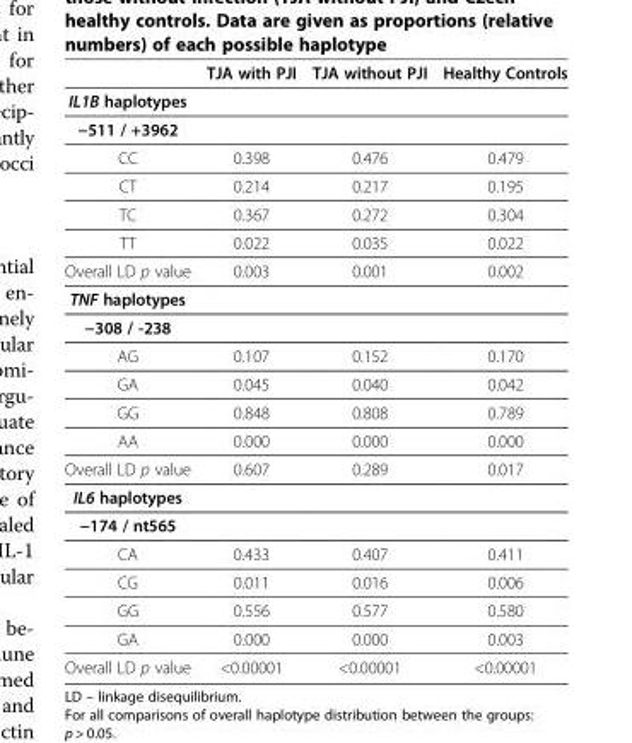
<table><thead><tr><td></td><td>TJA with PJI</td><td>TJA without PJI</td><td>Healthy Controls</td></tr></thead><tbody><tr><td colspan="4">IL1B haplotypes</td></tr><tr><td colspan="4">−511 / +3962</td></tr><tr><td>CC</td><td>0.398</td><td>0.476</td><td>0.479</td></tr><tr><td>CT</td><td>0.214</td><td>0.217</td><td>0.195</td></tr><tr><td>TC</td><td>0.367</td><td>0.272</td><td>0.304</td></tr><tr><td>TT</td><td>0.022</td><td>0.035</td><td>0.022</td></tr><tr><td>Overall LD p value</td><td>0.003</td><td>0.001</td><td>0.002</td></tr><tr><td colspan="4">TNF haplotypes</td></tr><tr><td colspan="4">−308 / -238</td></tr><tr><td>AG</td><td>0.107</td><td>0.152</td><td>0.170</td></tr><tr><td>GA</td><td>0.045</td><td>0.040</td><td>0.042</td></tr><tr><td>GG</td><td>0.848</td><td>0.808</td><td>0.789</td></tr><tr><td>AA</td><td>0.000</td><td>0.000</td><td>0.000</td></tr><tr><td>Overall LD p value</td><td>0.607</td><td>0.289</td><td>0.017</td></tr><tr><td colspan="4">IL6 haplotypes</td></tr><tr><td colspan="4">−174 / nt565</td></tr><tr><td>CA</td><td>0.433</td><td>0.407</td><td>0.411</td></tr><tr><td>CG</td><td>0.011</td><td>0.016</td><td>0.006</td></tr><tr><td>GG</td><td>0.556</td><td>0.577</td><td>0.580</td></tr><tr><td>GA</td><td>0.000</td><td>0.000</td><td>0.003</td></tr><tr><td>Overall LD p value</td><td>&lt;0.00001</td><td>&lt;0.00001</td><td>&lt;0.00001</td></tr></tbody></table>